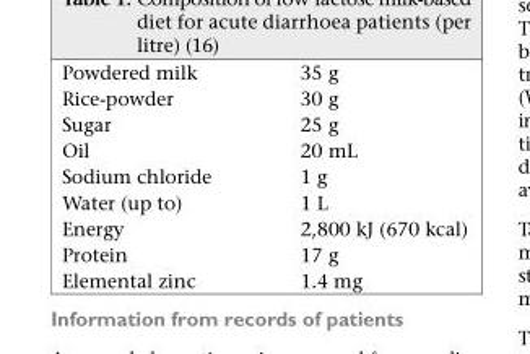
<table><tbody><tr><td>Powdered milk</td><td>35 g</td></tr><tr><td>Rice-powder</td><td>30 g</td></tr><tr><td>Sugar</td><td>25 g</td></tr><tr><td>Oil</td><td>20 mL</td></tr><tr><td>Sodium chloride</td><td>1 g</td></tr><tr><td>Water (up to)</td><td>1 L</td></tr><tr><td>Energy</td><td>2,800 kJ (670 kcal)</td></tr><tr><td>Protein</td><td>17 g</td></tr><tr><td>Elemental zinc</td><td>1.4 mg</td></tr></tbody></table>